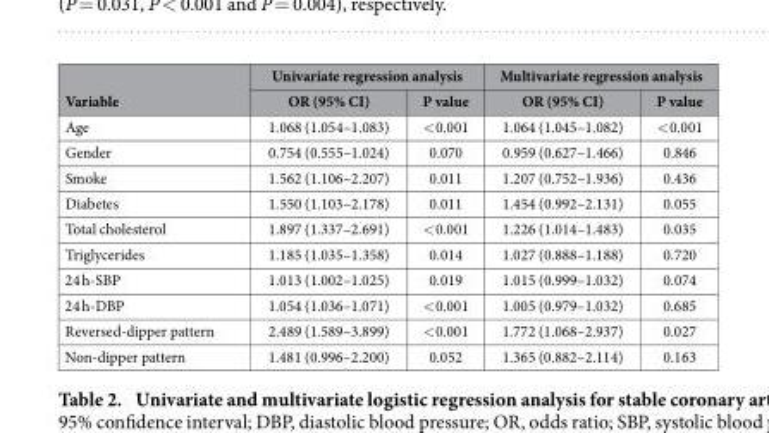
<table><thead><tr><td rowspan="2">Variable</td><td colspan="2">Univariate regression analysis</td><td colspan="2">Multivariate regression analysis</td></tr><tr><td>OR (95% CI)</td><td>P value</td><td>OR (95% CI)</td><td>P value</td></tr></thead><tbody><tr><td>Age</td><td>1.068 (1.054–1.083)</td><td>&lt; 0.001</td><td>1.064 (1.045–1.082)</td><td>&lt; 0.001</td></tr><tr><td>Gender</td><td>0.754 (0.555–1.024)</td><td>0.070</td><td>0.959 (0.627–1.466)</td><td>0.846</td></tr><tr><td>Smoke</td><td>1.562 (1.106–2.207)</td><td>0.011</td><td>1.207 (0.752–1.936)</td><td>0.436</td></tr><tr><td>Diabetes</td><td>1.550 (1.103–2.178)</td><td>0.011</td><td>1.454 (0.992–2.131)</td><td>0.055</td></tr><tr><td>Total cholesterol</td><td>1.897 (1.337–2.691)</td><td>&lt; 0.001</td><td>1.226 (1.014–1.483)</td><td>0.035</td></tr><tr><td>Triglycerides</td><td>1.185 (1.035–1.358)</td><td>0.014</td><td>1.027 (0.888–1.188)</td><td>0.720</td></tr><tr><td>24 h-SBP</td><td>1.013 (1.002–1.025)</td><td>0.019</td><td>1.015 (0.999–1.032)</td><td>0.074</td></tr><tr><td>24 h-DBP</td><td>1.054 (1.036–1.071)</td><td>&lt; 0.001</td><td>1.005 (0.979–1.032)</td><td>0.685</td></tr><tr><td>Reversed-dipper pattern</td><td>2.489 (1.589–3.899)</td><td>&lt; 0.001</td><td>1.772 (1.068–2.937)</td><td>0.027</td></tr><tr><td>Non-dipper pattern</td><td>1.481 (0.996–2.200)</td><td>0.052</td><td>1.365 (0.882–2.114)</td><td>0.163</td></tr></tbody></table>